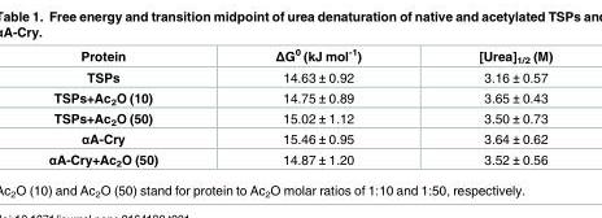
<table><thead><tr><td>Protein</td><td>ΔG<sup>0</sup> (kJ mol<sup>-1</sup>)</td><td>[Urea]<sub>1/2</sub> (M)</td></tr></thead><tbody><tr><td>TSPs</td><td>14.63 ± 0.92</td><td>3.16 ± 0.57</td></tr><tr><td>TSPs+Ac<sub>2</sub>O (10)</td><td>14.75 ± 0.89</td><td>3.65 ± 0.43</td></tr><tr><td>TSPs+Ac<sub>2</sub>O (50)</td><td>15.02 ± 1.12</td><td>3.50 ± 0.73</td></tr><tr><td>αA-Cry</td><td>15.46 ± 0.95</td><td>3.64 ± 0.62</td></tr><tr><td>αA-Cry+Ac<sub>2</sub>O (50)</td><td>14.87 ± 1.20</td><td>3.52 ± 0.56</td></tr></tbody></table>